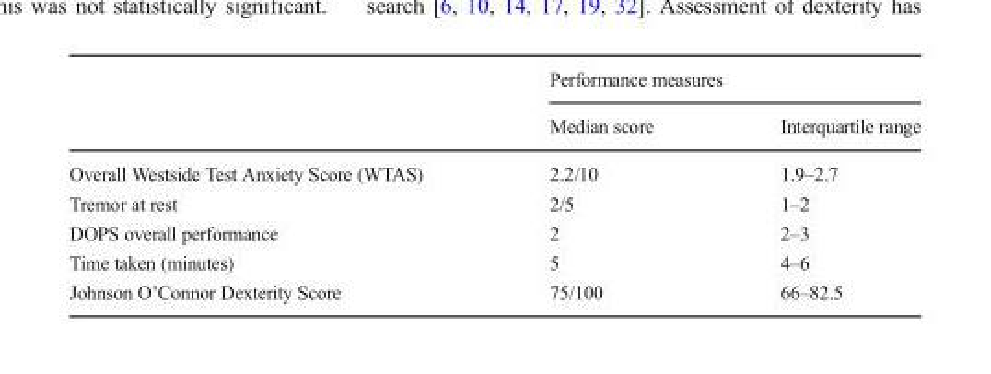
<table><thead><tr><td rowspan="2"></td><td colspan="2">Performance measures</td></tr><tr><td>Median score</td><td>Interquartile range</td></tr></thead><tbody><tr><td>Overall Westside Test Anxiety Score (WTAS)</td><td>2.2/10</td><td>1.9–2.7</td></tr><tr><td>Tremor at rest</td><td>2/5</td><td>1–2</td></tr><tr><td>DOPS overall performance</td><td>2</td><td>2–3</td></tr><tr><td>Time taken (minutes)</td><td>5</td><td>4–6</td></tr><tr><td>Johnson O’Connor Dexterity Score</td><td>75/100</td><td>66–82.5</td></tr></tbody></table>